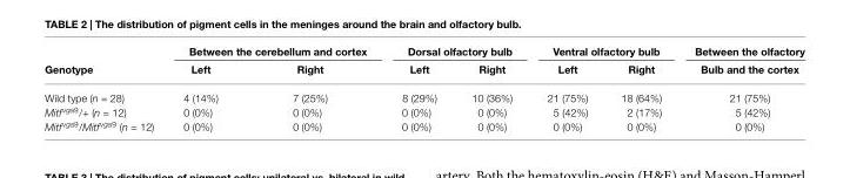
<table><thead><tr><td rowspan="2">Genotype</td><td colspan="2">Between the cerebellum and cortex</td><td colspan="2">Dorsal olfactory bulb</td><td colspan="2">Ventral olfactory bulb</td><td rowspan="2">Between the olfactory Bulb and the cortex</td></tr><tr><td>Left</td><td>Right</td><td>Left</td><td>Right</td><td>Left</td><td>Right</td></tr></thead><tbody><tr><td>Wild type (n = 28)</td><td>4 (14%)</td><td>7 (25%)</td><td>8 (29%)</td><td>10 (36%)</td><td>21 (75%)</td><td>18 (64%)</td><td>21 (75%)</td></tr><tr><td>Mitf<sup>vga9</sup>/+ (n = 12)</td><td>0 (0%)</td><td>0 (0%)</td><td>0 (0%)</td><td>0 (0%)</td><td>5 (42%)</td><td>2 (17%)</td><td>5 (42%)</td></tr><tr><td>Mitf<sup>vga9</sup>/Mitf<sup>vga9</sup> (n = 12)</td><td>0 (0%)</td><td>0 (0%)</td><td>0 (0%)</td><td>0 (0%)</td><td>0 (0%)</td><td>0 (0%)</td><td>0 (0%)</td></tr></tbody></table>